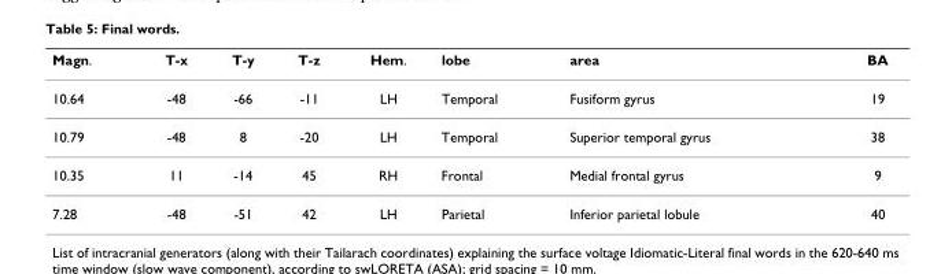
<table><thead><tr><td>Magn.</td><td>T-x</td><td>T-y</td><td>T-z</td><td>Hem.</td><td>lobe</td><td>area</td><td>BA</td></tr></thead><tbody><tr><td>10.64</td><td>-48</td><td>-66</td><td>-11</td><td>LH</td><td>Temporal</td><td>Fusiform gyrus</td><td>19</td></tr><tr><td>10.79</td><td>-48</td><td>8</td><td>-20</td><td>LH</td><td>Temporal</td><td>Superior temporal gyrus</td><td>38</td></tr><tr><td>10.35</td><td>11</td><td>-14</td><td>45</td><td>RH</td><td>Frontal</td><td>Medial frontal gyrus</td><td>9</td></tr><tr><td>7.28</td><td>-48</td><td>-51</td><td>42</td><td>LH</td><td>Parietal</td><td>Inferior parietal lobule</td><td>40</td></tr></tbody></table>